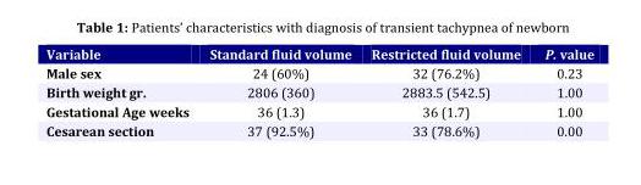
<table><thead><tr><td>Variable</td><td>Standard fluid volume</td><td>Restricted fluid volume</td><td>P. value</td></tr></thead><tbody><tr><td>Male sex</td><td>24 (60%)</td><td>32 (76.2%)</td><td>0.23</td></tr><tr><td>Birth weight gr.</td><td>2806 (360)</td><td>2883.5 (542.5)</td><td>1.00</td></tr><tr><td>Gestational Age weeks</td><td>36 (1.3)</td><td>36 (1.7)</td><td>1.00</td></tr><tr><td>Cesarean section</td><td>37 (92.5%)</td><td>33 (78.6%)</td><td>0.00</td></tr></tbody></table>